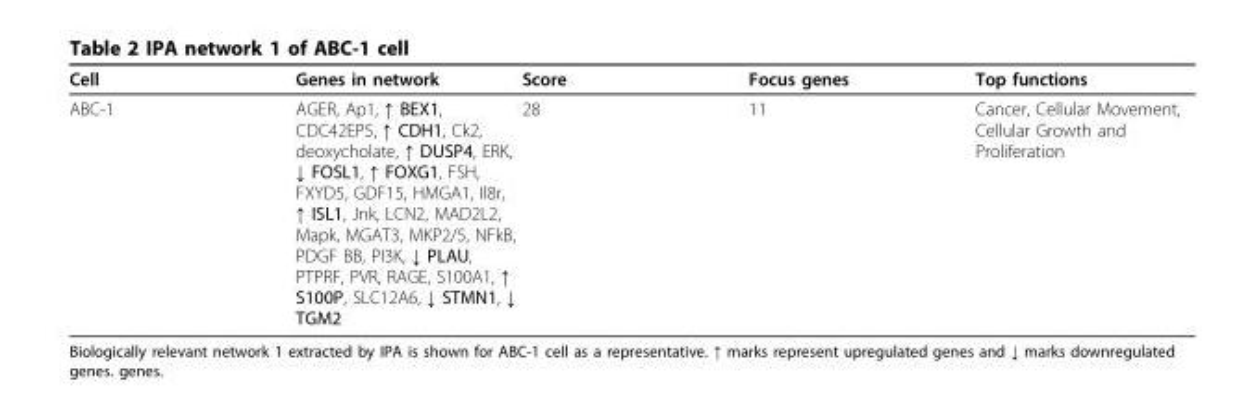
<table><thead><tr><td>Cell</td><td>Genes in network</td><td>Score</td><td>Focus genes</td><td>Top functions</td></tr></thead><tbody><tr><td>ABC-1</td><td>AGER, Ap1, ↑ BEX1, CDC42EP5, ↑ CDH1, Ck2, deoxycholate, ↑ DUSP4, ERK, ↓ FOSL1, ↑ FOXG1, FSH, FXYD5, GDF15, HMGA1, Il8r, ↑ ISL1, Jnk, LCN2, MAD2L2, Mapk, MGAT3, MKP2/5, NFkB, PDGF BB, PI3K, ↓ PLAU, PTPRF, PVR, RAGE, S100A1, ↑ S100P, SLC12A6, ↓ STMN1, ↓ TGM2</td><td>28</td><td>11</td><td>Cancer, Cellular Movement, Cellular Growth and Proliferation</td></tr></tbody></table>